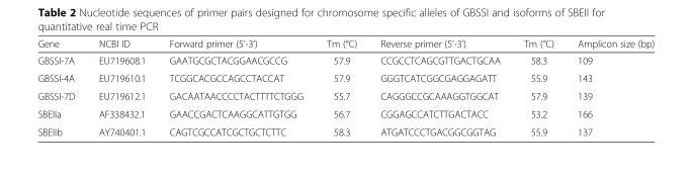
<table><thead><tr><td>Gene</td><td>NCBI ID</td><td>Forward primer (5’-3’)</td><td>Tm (°C)</td><td>Reverse primer (5’-3’)</td><td>Tm (°C)</td><td>Amplicon size (bp)</td></tr></thead><tbody><tr><td>GBSSI-7A</td><td>EU719608.1</td><td>GAATGCGCTACGGAACGCCG</td><td>57.9</td><td>CCGCCTCAGCGTTGACTGCAA</td><td>58.3</td><td>109</td></tr><tr><td>GBSSI-4A</td><td>EU719610.1</td><td>TCGGCACGCCAGCCTACCAT</td><td>57.9</td><td>GGGTCATCGGCGAGGAGATT</td><td>55.9</td><td>143</td></tr><tr><td>GBSSI-7D</td><td>EU719612.1</td><td>GACAATAACCCCTACTTTTCTGGG</td><td>55.7</td><td>CAGGGCCGCAAAGGTGGCAT</td><td>57.9</td><td>139</td></tr><tr><td>SBEIIa</td><td>AF338432.1</td><td>GAACCGACTCAAGGCATTGTGG</td><td>56.7</td><td>CGGAGCCATCTTGACTACC</td><td>53.2</td><td>166</td></tr><tr><td>SBEIIb</td><td>AY740401.1</td><td>CAGTCGCCATCGCTGCTCTTC</td><td>58.3</td><td>ATGATCCCTGACGGCGGTAG</td><td>55.9</td><td>137</td></tr></tbody></table>